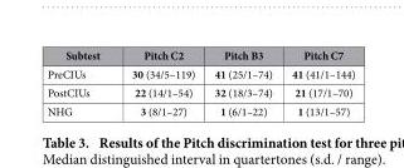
<table><thead><tr><td>Subtest</td><td>Pitch C2</td><td>Pitch B3</td><td>Pitch C7</td></tr></thead><tbody><tr><td>PreCIUs</td><td>30 (34/5–119)</td><td>41 (25/1–74)</td><td>41 (41/1–144)</td></tr><tr><td>PostCIUs</td><td>22 (14/1–54)</td><td>32 (18/3–74)</td><td>21 (17/1–70)</td></tr><tr><td>NHG</td><td>3 (8/1–27)</td><td>1 (6/1–22)</td><td>1 (13/1–57)</td></tr></tbody></table>